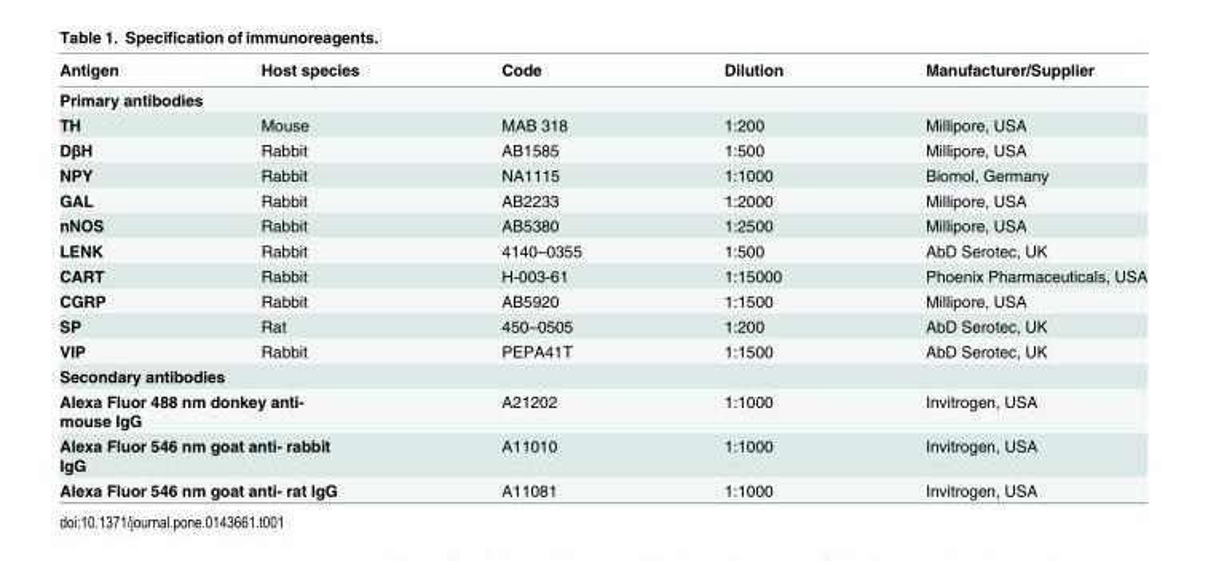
<table><thead><tr><td>Antigen</td><td>Host species</td><td>Code</td><td>Dilution</td><td>Manufacturer/Supplier</td></tr></thead><tbody><tr><td colspan="5">Primary antibodies</td></tr><tr><td>TH</td><td>Mouse</td><td>MAB 318</td><td>1:200</td><td>Millipore, USA</td></tr><tr><td>DβH</td><td>Rabbit</td><td>AB1585</td><td>1:500</td><td>Millipore, USA</td></tr><tr><td>NPY</td><td>Rabbit</td><td>NA1115</td><td>1:1000</td><td>Biomol, Germany</td></tr><tr><td>GAL</td><td>Rabbit</td><td>AB2233</td><td>1:2000</td><td>Millipore, USA</td></tr><tr><td>nNOS</td><td>Rabbit</td><td>AB5380</td><td>1:2500</td><td>Millipore, USA</td></tr><tr><td>LENK</td><td>Rabbit</td><td>4140–0355</td><td>1:500</td><td>AbD Serotec, UK</td></tr><tr><td>CART</td><td>Rabbit</td><td>H-003-61</td><td>1:15000</td><td>Phoenix Pharmaceuticals, USA</td></tr><tr><td>CGRP</td><td>Rabbit</td><td>AB5920</td><td>1:1500</td><td>Millipore, USA</td></tr><tr><td>SP</td><td>Rat</td><td>450–0505</td><td>1:200</td><td>AbD Serotec, UK</td></tr><tr><td>VIP</td><td>Rabbit</td><td>PEPA41T</td><td>1:1500</td><td>AbD Serotec, UK</td></tr><tr><td colspan="5">Secondary antibodies</td></tr><tr><td colspan="2">Alexa Fluor 488 nm donkey anti- mouse IgG</td><td>A21202</td><td>1:1000</td><td>Invitrogen, USA</td></tr><tr><td colspan="2">Alexa Fluor 546 nm goat anti- rabbit IgG</td><td>A11010</td><td>1:1000</td><td>Invitrogen, USA</td></tr><tr><td colspan="2">Alexa Fluor 546 nm goat anti- rat IgG</td><td>A11081</td><td>1:1000</td><td>Invitrogen, USA</td></tr></tbody></table>